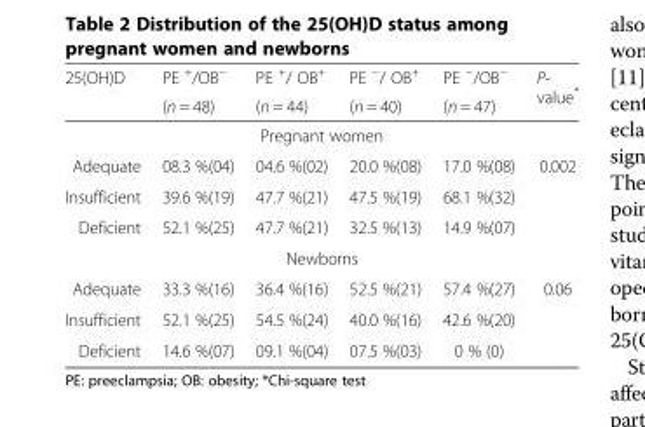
<table><thead><tr><td rowspan="2">25(OH)D</td><td rowspan="2">PE <sup>+</sup>/OB<sup>−</sup> (n = 48)</td><td rowspan="2">PE <sup>+</sup>/ OB<sup>+</sup> (n = 44)</td><td rowspan="2">PE <sup>−</sup>/ OB<sup>+</sup> (n = 40)</td><td rowspan="2">PE <sup>−</sup>/OB<sup>−</sup> (n = 47)</td><td rowspan="2">P- value*</td></tr><tr></tr></thead><tbody><tr><td colspan="6">Pregnant women</td></tr><tr><td>Adequate</td><td>08.3 %(04)</td><td>04.6 %(02)</td><td>20.0 %(08)</td><td>17.0 %(08)</td><td rowspan="3">0.002</td></tr><tr><td>Insufficient</td><td>39.6 %(19)</td><td>47.7 %(21)</td><td>47.5 %(19)</td><td>68.1 %(32)</td></tr><tr><td>Deficient</td><td>52.1 %(25)</td><td>47.7 %(21)</td><td>32.5 %(13)</td><td>14.9 %(07)</td></tr><tr><td colspan="6">Newborns</td></tr><tr><td>Adequate</td><td>33.3 %(16)</td><td>36.4 %(16)</td><td>52.5 %(21)</td><td>57.4 %(27)</td><td rowspan="3">0.06</td></tr><tr><td>Insufficient</td><td>52.1 %(25)</td><td>54.5 %(24)</td><td>40.0 %(16)</td><td>42.6 %(20)</td></tr><tr><td>Deficient</td><td>14.6 %(07)</td><td>09.1 %(04)</td><td>07.5 %(03)</td><td>0 % (0)</td></tr></tbody></table>